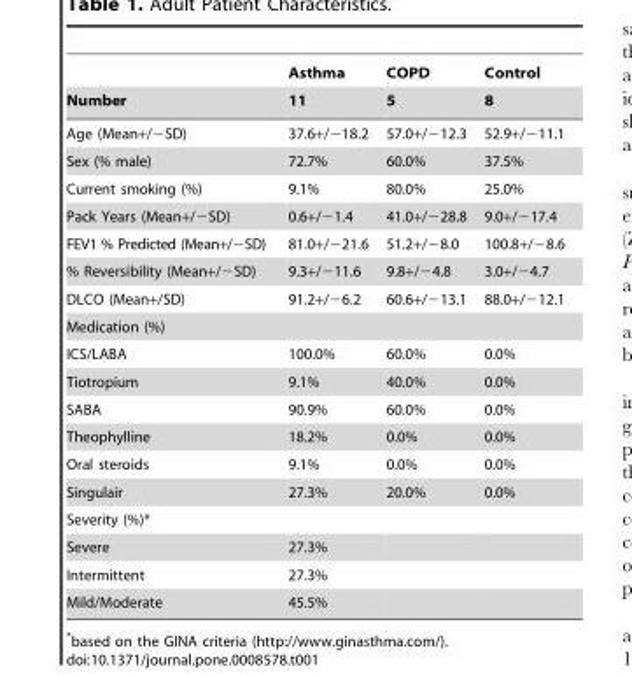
<table><thead><tr><td rowspan="2">Number</td><td rowspan="2">Asthma 11</td><td rowspan="2">COPD 5</td><td rowspan="2">Control 8</td></tr><tr></tr></thead><tbody><tr><td>Age (Mean+/−SD)</td><td>37.6+/−18.2</td><td>57.0+/−12.3</td><td>52.9+/−11.1</td></tr><tr><td>Sex (% male)</td><td>72.7%</td><td>60.0%</td><td>37.5%</td></tr><tr><td>Current smoking (%)</td><td>9.1%</td><td>80.0%</td><td>25.0%</td></tr><tr><td>Pack Years (Mean+/−SD)</td><td>0.6+/−1.4</td><td>41.0+/−28.8</td><td>9.0+/−17.4</td></tr><tr><td>FEV1 % Predicted (Mean+/−SD)</td><td>81.0+/−21.6</td><td>51.2+/−8.0</td><td>100.8+/−8.6</td></tr><tr><td>% Reversibility (Mean+/−SD)</td><td>9.3+/−11.6</td><td>9.8+/−4.8</td><td>3.0+/−4.7</td></tr><tr><td>DLCO (Mean+/SD)</td><td>91.2+/−6.2</td><td>60.6+/−13.1</td><td>88.0+/−12.1</td></tr><tr><td colspan="4">Medication (%)</td></tr><tr><td>ICS/LABA</td><td>100.0%</td><td>60.0%</td><td>0.0%</td></tr><tr><td>Tiotropium</td><td>9.1%</td><td>40.0%</td><td>0.0%</td></tr><tr><td>SABA</td><td>90.9%</td><td>60.0%</td><td>0.0%</td></tr><tr><td>Theophylline</td><td>18.2%</td><td>0.0%</td><td>0.0%</td></tr><tr><td>Oral steroids</td><td>9.1%</td><td>0.0%</td><td>0.0%</td></tr><tr><td>Singulair</td><td>27.3%</td><td>20.0%</td><td>0.0%</td></tr><tr><td colspan="4">Severity (%)*</td></tr><tr><td>Severe</td><td>27.3%</td><td></td><td></td></tr><tr><td>Intermittent</td><td>27.3%</td><td></td><td></td></tr><tr><td>Mild/Moderate</td><td>45.5%</td><td></td><td></td></tr></tbody></table>